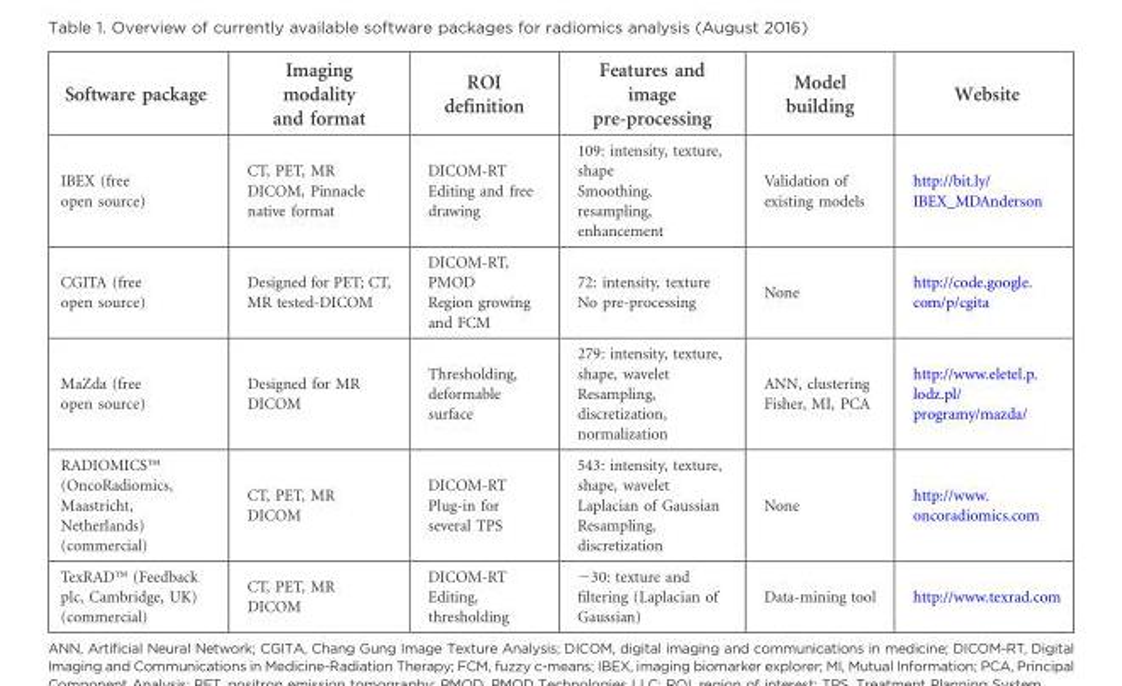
<table><thead><tr><td>Software package</td><td>Imaging modality and format</td><td>ROI definition</td><td>Features and image pre-processing</td><td>Model building</td><td>Website</td></tr></thead><tbody><tr><td>IBEX (free open source)</td><td>CT, PET, MR DICOM, Pinnacle native format</td><td>DICOM-RT Editing and free drawing</td><td>109: intensity, texture, shape Smoothing, resampling, enhancement</td><td>Validation of existing models</td><td>http://bit.ly/ IBEX_MDAnderson</td></tr><tr><td>CGITA (free open source)</td><td>Designed for PET; CT, MR tested-DICOM</td><td>DICOM-RT, PMOD Region growing and FCM</td><td>72: intensity, texture No pre-processing</td><td>None</td><td>http://code.google. com/p/cgita</td></tr><tr><td>MaZda (free open source)</td><td>Designed for MR DICOM</td><td>Thresholding, deformable surface</td><td>279: intensity, texture, shape, wavelet Resampling, discretization, normalization</td><td>ANN, clustering Fisher, MI, PCA</td><td>http://www.eletel.p. lodz.pl/ programy/mazda/</td></tr><tr><td>RADIOMICS<sup>™</sup> (OncoRadiomics, Maastricht, Netherlands) (commercial)</td><td>CT, PET, MR DICOM</td><td>DICOM-RT Plug-in for several TPS</td><td>543: intensity, texture, shape, wavelet Laplacian of Gaussian Resampling, discretization</td><td>None</td><td>http://www. oncoradiomics.com</td></tr><tr><td>TexRAD<sup>™</sup> (Feedback plc, Cambridge, UK) (commercial)</td><td>CT, PET, MR DICOM</td><td>DICOM-RT Editing, thresholding</td><td>−30: texture and filtering (Laplacian of Gaussian)</td><td>Data-mining tool</td><td>http://www.texrad.com</td></tr></tbody></table>